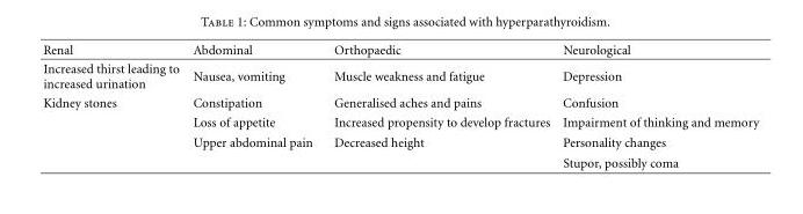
<table><thead><tr><td>Renal</td><td>Abdominal</td><td>Orthopaedic</td><td>Neurological</td></tr></thead><tbody><tr><td>Increased thirst leading to increased urination</td><td>Nausea, vomiting</td><td>Muscle weakness and fatigue</td><td>Depression</td></tr><tr><td rowspan="4">Kidney stones</td><td>Constipation</td><td>Generalised aches and pains</td><td>Confusion</td></tr><tr><td>Loss of appetite</td><td>Increased propensity to develop fractures</td><td>Impairment of thinking and memory</td></tr><tr><td>Upper abdominal pain</td><td>Decreased height</td><td>Personality changes</td></tr><tr><td></td><td></td><td>Stupor, possibly coma</td></tr></tbody></table>